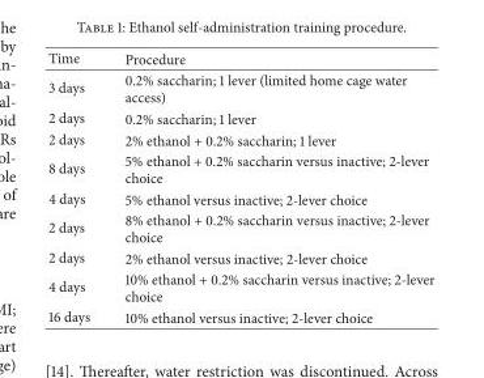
<table><thead><tr><td>Time</td><td>Procedure</td></tr></thead><tbody><tr><td>3 days</td><td>0.2% saccharin; 1 lever (limited home cage water access)</td></tr><tr><td>2 days</td><td>0.2% saccharin; 1 lever</td></tr><tr><td>2 days</td><td>2% ethanol + 0.2% saccharin; 1 lever</td></tr><tr><td>8 days</td><td>5% ethanol + 0.2% saccharin versus inactive; 2-lever choice</td></tr><tr><td>4 days</td><td>5% ethanol versus inactive; 2-lever choice</td></tr><tr><td>2 days</td><td>8% ethanol + 0.2% saccharin versus inactive; 2-lever choice</td></tr><tr><td>2 days</td><td>2% ethanol versus inactive; 2-lever choice</td></tr><tr><td>4 days</td><td>10% ethanol + 0.2% saccharin versus inactive; 2-lever choice</td></tr><tr><td>16 days</td><td>10% ethanol versus inactive; 2-lever choice</td></tr></tbody></table>